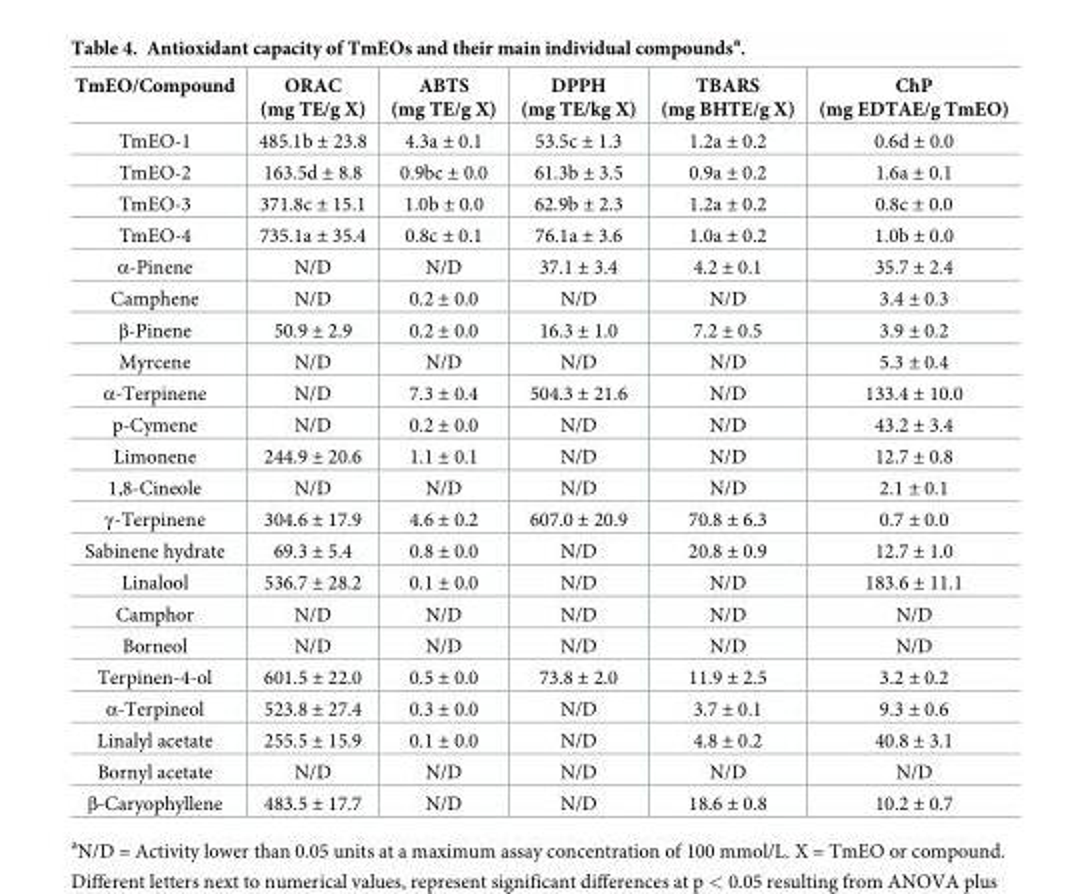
<table><thead><tr><td>TmEO/Compound</td><td>ORAC (mg TE/g X)</td><td>ABTS (mg TE/g X)</td><td>DPPH (mg TE/kg X)</td><td>TBARS (mg BHTE/g X)</td><td>ChP (mg EDTAE/g TmEO)</td></tr></thead><tbody><tr><td>TmEO-1</td><td>485.1b ± 23.8</td><td>4.3a ± 0.1</td><td>53.5c ± 1.3</td><td>1.2a ± 0.2</td><td>0.6d ± 0.0</td></tr><tr><td>TmEO-2</td><td>163.5d ± 8.8</td><td>0.9bc ± 0.0</td><td>61.3b ± 3.5</td><td>0.9a ± 0.2</td><td>1.6a ± 0.1</td></tr><tr><td>TmEO-3</td><td>371.8c ± 15.1</td><td>1.0b ± 0.0</td><td>62.9b ± 2.3</td><td>1.2a ± 0.2</td><td>0.8c ± 0.0</td></tr><tr><td>TmEO-4</td><td>735.1a ± 35.4</td><td>0.8c ± 0.1</td><td>76.1a ± 3.6</td><td>1.0a ± 0.2</td><td>1.0b ± 0.0</td></tr><tr><td>α-Pinene</td><td>N/D</td><td>N/D</td><td>37.1 ± 3.4</td><td>4.2 ± 0.1</td><td>35.7 ± 2.4</td></tr><tr><td>Camphene</td><td>N/D</td><td>0.2 ± 0.0</td><td>N/D</td><td>N/D</td><td>3.4 ± 0.3</td></tr><tr><td>β-Pinene</td><td>50.9 ± 2.9</td><td>0.2 ± 0.0</td><td>16.3 ± 1.0</td><td>7.2 ± 0.5</td><td>3.9 ± 0.2</td></tr><tr><td>Myrcene</td><td>N/D</td><td>N/D</td><td>N/D</td><td>N/D</td><td>5.3 ± 0.4</td></tr><tr><td>α-Terpinene</td><td>N/D</td><td>7.3 ± 0.4</td><td>504.3 ± 21.6</td><td>N/D</td><td>133.4 ± 10.0</td></tr><tr><td>p-Cymene</td><td>N/D</td><td>0.2 ± 0.0</td><td>N/D</td><td>N/D</td><td>43.2 ± 3.4</td></tr><tr><td>Limonene</td><td>244.9 ± 20.6</td><td>1.1 ± 0.1</td><td>N/D</td><td>N/D</td><td>12.7 ± 0.8</td></tr><tr><td>1,8-Cineole</td><td>N/D</td><td>N/D</td><td>N/D</td><td>N/D</td><td>2.1 ± 0.1</td></tr><tr><td>γ-Terpinene</td><td>304.6 ± 17.9</td><td>4.6 ± 0.2</td><td>607.0 ± 20.9</td><td>70.8 ± 6.3</td><td>0.7 ± 0.0</td></tr><tr><td>Sabinene hydrate</td><td>69.3 ± 5.4</td><td>0.8 ± 0.0</td><td>N/D</td><td>20.8 ± 0.9</td><td>12.7 ± 1.0</td></tr><tr><td>Linalool</td><td>536.7 ± 28.2</td><td>0.1 ± 0.0</td><td>N/D</td><td>N/D</td><td>183.6 ± 11.1</td></tr><tr><td>Camphor</td><td>N/D</td><td>N/D</td><td>N/D</td><td>N/D</td><td>N/D</td></tr><tr><td>Borneol</td><td>N/D</td><td>N/D</td><td>N/D</td><td>N/D</td><td>N/D</td></tr><tr><td>Terpinen-4-ol</td><td>601.5 ± 22.0</td><td>0.5 ± 0.0</td><td>73.8 ± 2.0</td><td>11.9 ± 2.5</td><td>3.2 ± 0.2</td></tr><tr><td>α-Terpineol</td><td>523.8 ± 27.4</td><td>0.3 ± 0.0</td><td>N/D</td><td>3.7 ± 0.1</td><td>9.3 ± 0.6</td></tr><tr><td>Linalyl acetate</td><td>255.5 ± 15.9</td><td>0.1 ± 0.0</td><td>N/D</td><td>4.8 ± 0.2</td><td>40.8 ± 3.1</td></tr><tr><td>Bornyl acetate</td><td>N/D</td><td>N/D</td><td>N/D</td><td>N/D</td><td>N/D</td></tr><tr><td>β-Caryophyllene</td><td>483.5 ± 17.7</td><td>N/D</td><td>N/D</td><td>18.6 ± 0.8</td><td>10.2 ± 0.7</td></tr></tbody></table>